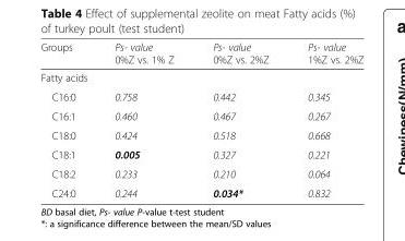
<table><thead><tr><td>Groups</td><td>Ps- value 0%Z vs. 1% Z</td><td>Ps- value 0%Z vs. 2%Z</td><td>Ps- value 1%Z vs. 2%Z</td></tr></thead><tbody><tr><td colspan="4">Fatty acids</td></tr><tr><td>C16:0</td><td>0.758</td><td>0.442</td><td>0.345</td></tr><tr><td>C16:1</td><td>0.460</td><td>0.467</td><td>0.267</td></tr><tr><td>C18:0</td><td>0.424</td><td>0.518</td><td>0.668</td></tr><tr><td>C18:1</td><td>0.005</td><td>0.327</td><td>0.221</td></tr><tr><td>C18:2</td><td>0.233</td><td>0.210</td><td>0.064</td></tr><tr><td>C24:0</td><td>0.244</td><td>0.034*</td><td>0.832</td></tr></tbody></table>